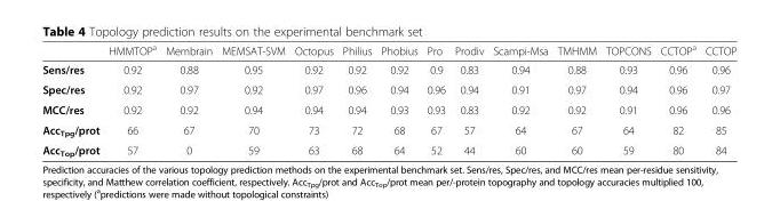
<table><thead><tr><td></td><td>HMMTOP<sup>a</sup></td><td>Membrain</td><td>MEMSAT-SVM</td><td>Octopus</td><td>Philius</td><td>Phobius</td><td>Pro</td><td>Prodiv</td><td>Scampi-Msa</td><td>TMHMM</td><td>TOPCONS</td><td>CCTOP<sup>a</sup></td><td>CCTOP</td></tr></thead><tbody><tr><td>Sens/res</td><td>0.92</td><td>0.88</td><td>0.95</td><td>0.92</td><td>0.92</td><td>0.92</td><td>0.9</td><td>0.83</td><td>0.94</td><td>0.88</td><td>0.93</td><td>0.96</td><td>0.96</td></tr><tr><td>Spec/res</td><td>0.92</td><td>0.97</td><td>0.92</td><td>0.97</td><td>0.96</td><td>0.94</td><td>0.96</td><td>0.94</td><td>0.91</td><td>0.97</td><td>0.94</td><td>0.96</td><td>0.97</td></tr><tr><td>MCC/res</td><td>0.92</td><td>0.92</td><td>0.94</td><td>0.94</td><td>0.94</td><td>0.93</td><td>0.93</td><td>0.83</td><td>0.92</td><td>0.92</td><td>0.91</td><td>0.96</td><td>0.96</td></tr><tr><td>Acc<sub>Tpg</sub>/prot</td><td>66</td><td>67</td><td>70</td><td>73</td><td>72</td><td>68</td><td>67</td><td>57</td><td>64</td><td>67</td><td>64</td><td>82</td><td>85</td></tr><tr><td>Acc<sub>Top</sub>/prot</td><td>57</td><td>0</td><td>59</td><td>63</td><td>68</td><td>64</td><td>52</td><td>44</td><td>60</td><td>60</td><td>59</td><td>80</td><td>84</td></tr></tbody></table>